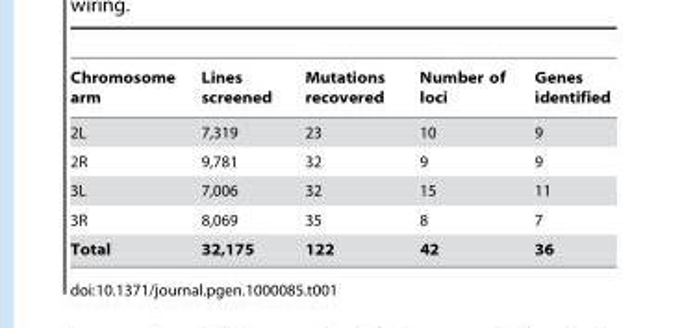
<table><thead><tr><td>Chromosome arm</td><td>Lines screened</td><td>Mutations recovered</td><td>Number of loci</td><td>Genes identified</td></tr></thead><tbody><tr><td>2L</td><td>7,319</td><td>23</td><td>10</td><td>9</td></tr><tr><td>2R</td><td>9,781</td><td>32</td><td>9</td><td>9</td></tr><tr><td>3L</td><td>7,006</td><td>32</td><td>15</td><td>11</td></tr><tr><td>3R</td><td>8,069</td><td>35</td><td>8</td><td>7</td></tr><tr><td>Total</td><td>32,175</td><td>122</td><td>42</td><td>36</td></tr></tbody></table>